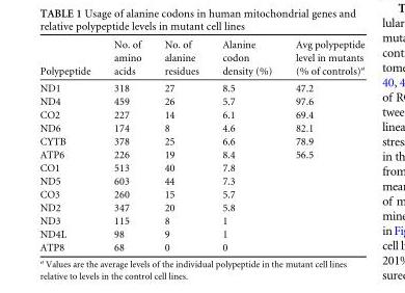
<table><thead><tr><td>Polypeptide</td><td>No. of amino acids</td><td>No. of alanine residues</td><td>Alanine codon density (%)</td><td>Avg polypeptide level in mutants (% of controls)<sup>a</sup></td></tr></thead><tbody><tr><td>ND1</td><td>318</td><td>27</td><td>8.5</td><td>47.2</td></tr><tr><td>ND4</td><td>459</td><td>26</td><td>5.7</td><td>97.6</td></tr><tr><td>CO2</td><td>227</td><td>14</td><td>6.1</td><td>69.4</td></tr><tr><td>ND6</td><td>174</td><td>8</td><td>4.6</td><td>82.1</td></tr><tr><td>CYTB</td><td>378</td><td>25</td><td>6.6</td><td>78.9</td></tr><tr><td>ATP6</td><td>226</td><td>19</td><td>8.4</td><td>56.5</td></tr><tr><td>CO1</td><td>513</td><td>40</td><td>7.8</td><td></td></tr><tr><td>ND5</td><td>603</td><td>44</td><td>7.3</td><td></td></tr><tr><td>CO3</td><td>260</td><td>15</td><td>5.7</td><td></td></tr><tr><td>ND2</td><td>347</td><td>20</td><td>5.8</td><td></td></tr><tr><td>ND3</td><td>115</td><td>8</td><td>1</td><td></td></tr><tr><td>ND4L</td><td>98</td><td>9</td><td>1</td><td></td></tr><tr><td>ATP8</td><td>68</td><td>0</td><td>0</td><td></td></tr></tbody></table>